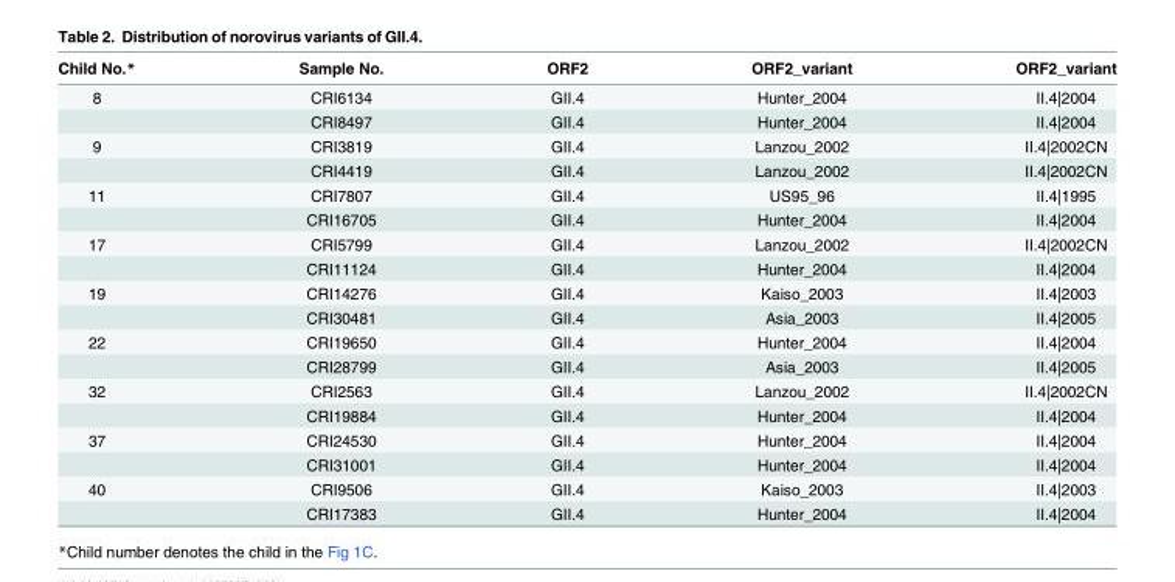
<table><thead><tr><td>Child No.*</td><td>Sample No.</td><td>ORF2</td><td>ORF2_variant</td><td>ORF2_variant</td></tr></thead><tbody><tr><td rowspan="2">8</td><td>CRI6134</td><td>GII.4</td><td>Hunter_2004</td><td>II.4|2004</td></tr><tr><td>CRI8497</td><td>GII.4</td><td>Hunter_2004</td><td>II.4|2004</td></tr><tr><td rowspan="2">9</td><td>CRI3819</td><td>GII.4</td><td>Lanzou_2002</td><td>II.4|2002CN</td></tr><tr><td>CRI4419</td><td>GII.4</td><td>Lanzou_2002</td><td>II.4|2002CN</td></tr><tr><td rowspan="2">11</td><td>CRI7807</td><td>GII.4</td><td>US95_96</td><td>II.4|1995</td></tr><tr><td>CRI16705</td><td>GII.4</td><td>Hunter_2004</td><td>II.4|2004</td></tr><tr><td rowspan="2">17</td><td>CRI5799</td><td>GII.4</td><td>Lanzou_2002</td><td>II.4|2002CN</td></tr><tr><td>CRI11124</td><td>GII.4</td><td>Hunter_2004</td><td>II.4|2004</td></tr><tr><td rowspan="2">19</td><td>CRI14276</td><td>GII.4</td><td>Kaiso_2003</td><td>II.4|2003</td></tr><tr><td>CRI30481</td><td>GII.4</td><td>Asia_2003</td><td>II.4|2005</td></tr><tr><td rowspan="2">22</td><td>CRI19650</td><td>GII.4</td><td>Hunter_2004</td><td>II.4|2004</td></tr><tr><td>CRI28799</td><td>GII.4</td><td>Asia_2003</td><td>II.4|2005</td></tr><tr><td rowspan="2">32</td><td>CRI2563</td><td>GII.4</td><td>Lanzou_2002</td><td>II.4|2002CN</td></tr><tr><td>CRI19884</td><td>GII.4</td><td>Hunter_2004</td><td>II.4|2004</td></tr><tr><td rowspan="2">37</td><td>CRI24530</td><td>GII.4</td><td>Hunter_2004</td><td>II.4|2004</td></tr><tr><td>CRI31001</td><td>GII.4</td><td>Hunter_2004</td><td>II.4|2004</td></tr><tr><td rowspan="2">40</td><td>CRI9506</td><td>GII.4</td><td>Kaiso_2003</td><td>II.4|2003</td></tr><tr><td>CRI17383</td><td>GII.4</td><td>Hunter_2004</td><td>II.4|2004</td></tr></tbody></table>